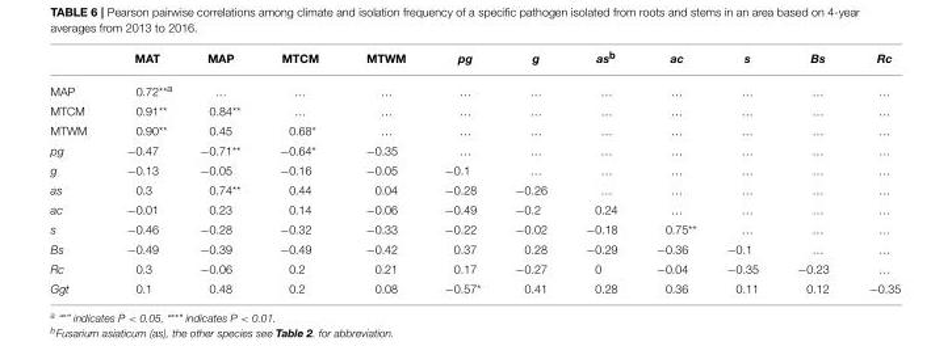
<table><thead><tr><td></td><td>MAT</td><td>MAP</td><td>MTCM</td><td>MTWM</td><td>pg</td><td>g</td><td>as<sup>b</sup></td><td>ac</td><td>s</td><td>Bs</td><td>Rc</td></tr></thead><tbody><tr><td>MAP</td><td>0.72<sup>**a</sup></td><td>…</td><td>…</td><td>…</td><td>…</td><td>…</td><td>…</td><td>…</td><td>…</td><td>…</td><td>…</td></tr><tr><td>MTCM</td><td>0.91**</td><td>0.84**</td><td>…</td><td>…</td><td>…</td><td>…</td><td>…</td><td>…</td><td>…</td><td>…</td><td>…</td></tr><tr><td>MTWM</td><td>0.90**</td><td>0.45</td><td>0.68*</td><td>…</td><td>…</td><td>…</td><td>…</td><td>…</td><td>…</td><td>…</td><td>…</td></tr><tr><td>pg</td><td>−0.47</td><td>−0.71**</td><td>−0.64*</td><td>−0.35</td><td>…</td><td>…</td><td>…</td><td>…</td><td>…</td><td>…</td><td>…</td></tr><tr><td>g</td><td>−0.13</td><td>−0.05</td><td>−0.16</td><td>−0.05</td><td>−0.1</td><td>…</td><td>…</td><td>…</td><td>…</td><td>…</td><td>…</td></tr><tr><td>as</td><td>0.3</td><td>0.74**</td><td>0.44</td><td>0.04</td><td>−0.28</td><td>−0.26</td><td>…</td><td>…</td><td>…</td><td>…</td><td>…</td></tr><tr><td>ac</td><td>−0.01</td><td>0.23</td><td>0.14</td><td>−0.06</td><td>−0.49</td><td>−0.2</td><td>0.24</td><td>…</td><td>…</td><td>…</td><td>…</td></tr><tr><td>s</td><td>−0.46</td><td>−0.28</td><td>−0.32</td><td>−0.33</td><td>−0.22</td><td>−0.02</td><td>−0.18</td><td>0.75**</td><td>…</td><td>…</td><td>…</td></tr><tr><td>Bs</td><td>−0.49</td><td>−0.39</td><td>−0.49</td><td>−0.42</td><td>0.37</td><td>0.28</td><td>−0.29</td><td>−0.36</td><td>−0.1</td><td>…</td><td>…</td></tr><tr><td>Rc</td><td>0.3</td><td>−0.06</td><td>0.2</td><td>0.21</td><td>0.17</td><td>−0.27</td><td>0</td><td>−0.04</td><td>−0.35</td><td>−0.23</td><td>…</td></tr><tr><td>Ggt</td><td>0.1</td><td>0.48</td><td>0.2</td><td>0.08</td><td>−0.57*</td><td>0.41</td><td>0.28</td><td>0.36</td><td>0.11</td><td>0.12</td><td>−0.35</td></tr></tbody></table>